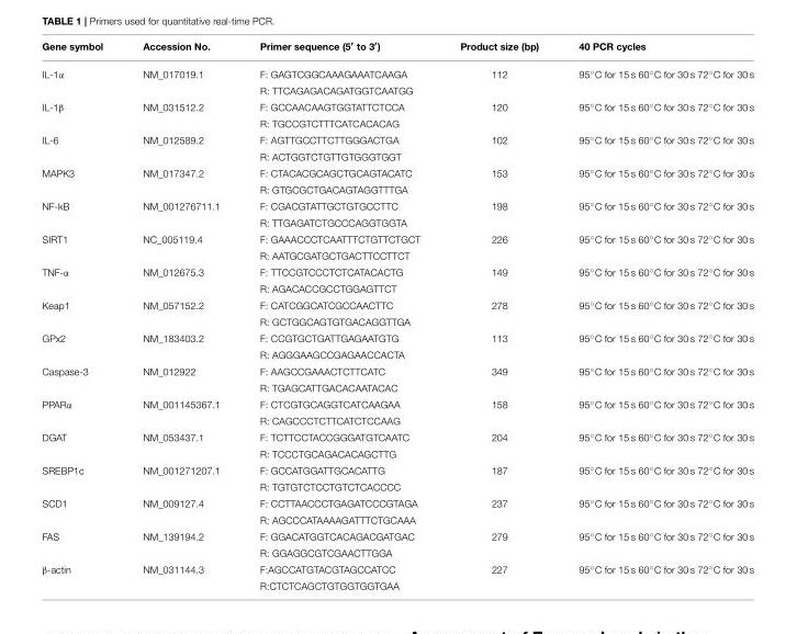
<table><thead><tr><td>Gene symbol</td><td>Accession No.</td><td>Primer sequence (5′ to 3′)</td><td>Product size (bp)</td><td>40 PCR cycles</td></tr></thead><tbody><tr><td rowspan="2">IL-1α</td><td>NM_017019.1</td><td>F: GAGTCGGCAAAGAAATCAAGA</td><td>112</td><td>95◦C for 15 s 60◦C for 30 s 72◦C for 30 s</td></tr><tr><td></td><td>R: TTCAGAGACAGATGGTCAATGG</td><td></td><td></td></tr><tr><td rowspan="2">IL-1β</td><td>NM_031512.2</td><td>F: GCCAACAAGTGGTATTCTCCA</td><td>120</td><td>95◦C for 15 s 60◦C for 30 s 72◦C for 30 s</td></tr><tr><td></td><td>R: TGCCGTCTTTCATCACACAG</td><td></td><td></td></tr><tr><td rowspan="2">IL-6</td><td>NM_012589.2</td><td>F: AGTTGCCTTCTTGGGACTGA</td><td>102</td><td>95◦C for 15 s 60◦C for 30 s 72◦C for 30 s</td></tr><tr><td></td><td>R: ACTGGTCTGTTGTGGGTGGT</td><td></td><td></td></tr><tr><td rowspan="2">MAPK3</td><td>NM_017347.2</td><td>F: CTACACGCAGCTGCAGTACATC</td><td>153</td><td>95◦C for 15 s 60◦C for 30 s 72◦C for 30 s</td></tr><tr><td></td><td>R: GTGCGCTGACAGTAGGTTTGA</td><td></td><td></td></tr><tr><td rowspan="2">NF-kB</td><td>NM_001276711.1</td><td>F: CGACGTATTGCTGTGCCTTC</td><td>198</td><td>95◦C for 15 s 60◦C for 30 s 72◦C for 30 s</td></tr><tr><td></td><td>R: TTGAGATCTGCCCAGGTGGTA</td><td></td><td></td></tr><tr><td rowspan="2">SIRT1</td><td>NC_005119.4</td><td>F: GAAACCCTCAATTTCTGTTCTGCT</td><td>226</td><td>95◦C for 15 s 60◦C for 30 s 72◦C for 30 s</td></tr><tr><td></td><td>R: AATGCGATGCTGACTTCCTTCT</td><td></td><td></td></tr><tr><td rowspan="2">TNF-α</td><td>NM_012675.3</td><td>F: TTCCGTCCCTCTCATACACTG</td><td>149</td><td>95◦C for 15 s 60◦C for 30 s 72◦C for 30 s</td></tr><tr><td></td><td>R: AGACACCGCCTGGAGTTCT</td><td></td><td></td></tr><tr><td rowspan="2">Keap1</td><td>NM_057152.2</td><td>F: CATCGGCATCGCCAACTTC</td><td>278</td><td>95◦C for 15 s 60◦C for 30 s 72◦C for 30 s</td></tr><tr><td></td><td>R: GCTGGCAGTGTGACAGGTTGA</td><td></td><td></td></tr><tr><td rowspan="2">GPx2</td><td>NM_183403.2</td><td>F: CCGTGCTGATTGAGAATGTG</td><td>113</td><td>95◦C for 15 s 60◦C for 30 s 72◦C for 30 s</td></tr><tr><td></td><td>R: AGGGAAGCCGAGAACCACTA</td><td></td><td></td></tr><tr><td rowspan="2">Caspase-3</td><td>NM_012922</td><td>F: AAGCCGAAACTCTTCATC</td><td>349</td><td>95◦C for 15 s 60◦C for 30 s 72◦C for 30 s</td></tr><tr><td></td><td>R: TGAGCATTGACACAATACAC</td><td></td><td></td></tr><tr><td rowspan="2">PPARα</td><td>NM_001145367.1</td><td>F: CTCGTGCAGGTCATCAAGAA</td><td>158</td><td>95◦C for 15 s 60◦C for 30 s 72◦C for 30 s</td></tr><tr><td></td><td>R: CAGCCCTCTTCATCTCCAAG</td><td></td><td></td></tr><tr><td rowspan="2">DGAT</td><td>NM_053437.1</td><td>F: TCTTCCTACCGGGATGTCAATC</td><td>204</td><td>95◦C for 15 s 60◦C for 30 s 72◦C for 30 s</td></tr><tr><td></td><td>R: TCCCTGCAGACACAGCTTG</td><td></td><td></td></tr><tr><td rowspan="2">SREBP1c</td><td>NM_001271207.1</td><td>F: GCCATGGATTGCACATTG</td><td>187</td><td>95◦C for 15 s 60◦C for 30 s 72◦C for 30 s</td></tr><tr><td></td><td>R: TGTGTCTCCTGTCTCACCCC</td><td></td><td></td></tr><tr><td rowspan="2">SCD1</td><td>NM_009127.4</td><td>F: CCTTAACCCTGAGATCCCGTAGA</td><td>237</td><td>95◦C for 15 s 60◦C for 30 s 72◦C for 30 s</td></tr><tr><td></td><td>R: AGCCCATAAAAGATTTCTGCAAA</td><td></td><td></td></tr><tr><td rowspan="2">FAS</td><td>NM_139194.2</td><td>F: GGACATGGTCACAGACGATGAC</td><td>279</td><td>95◦C for 15 s 60◦C for 30 s 72◦C for 30 s</td></tr><tr><td></td><td>R: GGAGGCGTCGAACTTGGA</td><td></td><td></td></tr><tr><td rowspan="2">β-actin</td><td>NM_031144.3</td><td>F:AGCCATGTACGTAGCCATCC</td><td>227</td><td>95◦C for 15 s 60◦C for 30 s 72◦C for 30 s</td></tr><tr><td></td><td>R:CTCTCAGCTGTGGTGGTGAA</td><td></td><td></td></tr></tbody></table>